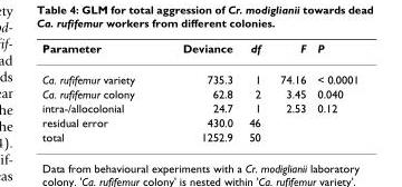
<table><thead><tr><td>Parameter</td><td>Deviance</td><td>df</td><td>F</td><td>P</td></tr></thead><tbody><tr><td>Ca. rufifemur variety</td><td>735.3</td><td>1</td><td>74.16</td><td>&lt; 0.0001</td></tr><tr><td>Ca. rufifemur colony</td><td>62.8</td><td>2</td><td>3.45</td><td>0.040</td></tr><tr><td>intra-/allocolonial</td><td>24.7</td><td>1</td><td>2.53</td><td>0.12</td></tr><tr><td>residual error</td><td>430.0</td><td>46</td><td></td><td></td></tr><tr><td>total</td><td>1252.9</td><td>50</td><td></td><td></td></tr></tbody></table>